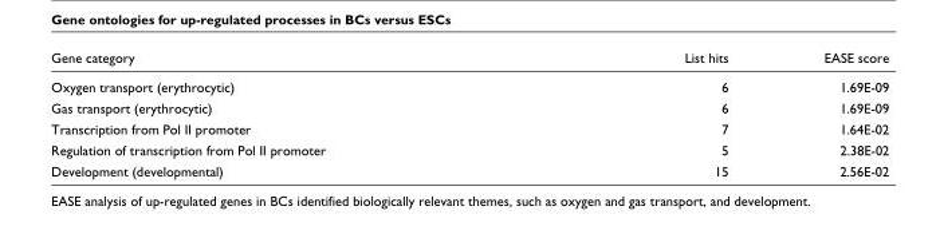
<table><thead><tr><td>Gene category</td><td>List hits</td><td>EASE score</td></tr></thead><tbody><tr><td>Oxygen transport (erythrocytic)</td><td>6</td><td>1.69E-09</td></tr><tr><td>Gas transport (erythrocytic)</td><td>6</td><td>1.69E-09</td></tr><tr><td>Transcription from Pol II promoter</td><td>7</td><td>1.64E-02</td></tr><tr><td>Regulation of transcription from Pol II promoter</td><td>5</td><td>2.38E-02</td></tr><tr><td>Development (developmental)</td><td>15</td><td>2.56E-02</td></tr></tbody></table>